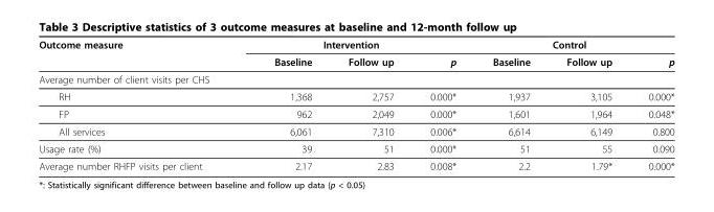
<table><thead><tr><td rowspan="2">Outcome measure</td><td colspan="3">Intervention</td><td colspan="3">Control</td></tr><tr><td>Baseline</td><td>Follow up</td><td>p</td><td>Baseline</td><td>Follow up</td><td>p</td></tr></thead><tbody><tr><td colspan="7">Average number of client visits per CHS</td></tr><tr><td>RH</td><td>1,368</td><td>2,757</td><td>0.000*</td><td>1,937</td><td>3,105</td><td>0.000*</td></tr><tr><td>FP</td><td>962</td><td>2,049</td><td>0.000*</td><td>1,601</td><td>1,964</td><td>0.048*</td></tr><tr><td>All services</td><td>6,061</td><td>7,310</td><td>0.006*</td><td>6,614</td><td>6,149</td><td>0.800</td></tr><tr><td>Usage rate (%)</td><td>39</td><td>51</td><td>0.000*</td><td>51</td><td>55</td><td>0.090</td></tr><tr><td>Average number RHFP visits per client</td><td>2.17</td><td>2.83</td><td>0.008*</td><td>2.2</td><td>1.79*</td><td>0.000*</td></tr></tbody></table>